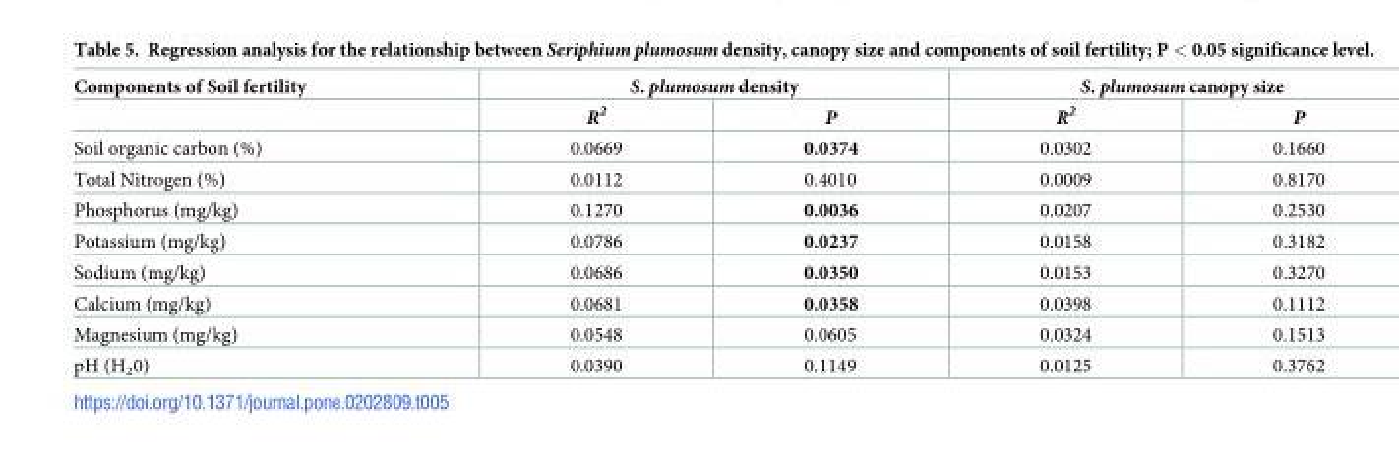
<table><thead><tr><td rowspan="2">Components of Soil fertility</td><td colspan="2">S. plumosum density</td><td colspan="2">S. plumosum canopy size</td></tr><tr><td>R<sup>2</sup></td><td>P</td><td>R<sup>2</sup></td><td>P</td></tr></thead><tbody><tr><td>Soil organic carbon (%)</td><td>0.0669</td><td>0.0374</td><td>0.0302</td><td>0.1660</td></tr><tr><td>Total Nitrogen (%)</td><td>0.0112</td><td>0.4010</td><td>0.0009</td><td>0.8170</td></tr><tr><td>Phosphorus (mg/kg)</td><td>0.1270</td><td>0.0036</td><td>0.0207</td><td>0.2530</td></tr><tr><td>Potassium (mg/kg)</td><td>0.0786</td><td>0.0237</td><td>0.0158</td><td>0.3182</td></tr><tr><td>Sodium (mg/kg)</td><td>0.0686</td><td>0.0350</td><td>0.0153</td><td>0.3270</td></tr><tr><td>Calcium (mg/kg)</td><td>0.0681</td><td>0.0358</td><td>0.0398</td><td>0.1112</td></tr><tr><td>Magnesium (mg/kg)</td><td>0.0548</td><td>0.0605</td><td>0.0324</td><td>0.1513</td></tr><tr><td>pH (H<sub>2</sub>0)</td><td>0.0390</td><td>0.1149</td><td>0.0125</td><td>0.3762</td></tr></tbody></table>